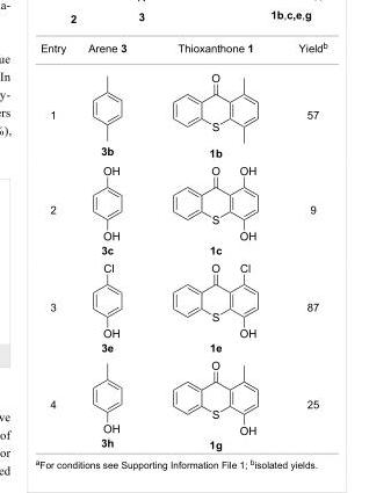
<table><tbody><tr><td>Entry</td><td>Arene 3</td><td>Thioxanthone 1</td><td>Yield<sup>b</sup></td></tr><tr><td>1</td><td>3b</td><td>1b</td><td>57</td></tr><tr><td>2</td><td>3c</td><td>1c</td><td>9</td></tr><tr><td>3</td><td>3e</td><td>1e</td><td>87</td></tr><tr><td>4</td><td>3h</td><td>1g</td><td>25</td></tr></tbody></table>